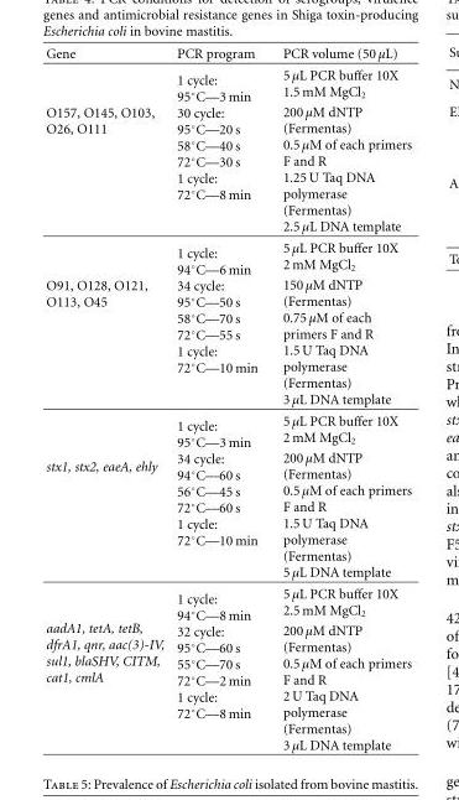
<table><thead><tr><td>Gene</td><td>PCR program</td><td>PCR volume (50 μL)</td></tr></thead><tbody><tr><td rowspan="2">O157, O145, O103, O26, O111</td><td rowspan="2">1 cycle: 95◦C—3 min 30 cycle: 95◦C—20 s 58◦C—40 s 72◦C—30 s 1 cycle: 72◦C—8 min</td><td>5 μL PCR buffer 10X 1.5 mM MgCl2</td></tr><tr><td>200 μM dNTP (Fermentas) 0.5 μM of each primers F and R 1.25 U Taq DNA polymerase (Fermentas) 2.5 μL DNA template</td></tr><tr><td rowspan="2">O91, O128, O121, O113, O45</td><td rowspan="2">1 cycle: 94◦C—6 min 34 cycle: 95◦C—50 s 58◦C—70 s 72◦C—55 s 1 cycle: 72◦C—10 min</td><td>5 μL PCR buffer 10X 2 mM MgCl2</td></tr><tr><td>150 μM dNTP (Fermentas) 0.75 μM of each primers F and R 1.5 U Taq DNA polymerase (Fermentas) 3 μL DNA template</td></tr><tr><td rowspan="2">stx1, stx2, eaeA, ehly</td><td rowspan="2">1 cycle: 95◦C—3 min 34 cycle: 94◦C—60 s 56◦C—45 s 72◦C—60 s 1 cycle: 72◦C—10 min</td><td>5 μL PCR buffer 10X 2 mM MgCl2</td></tr><tr><td>200 μM dNTP (Fermentas) 0.5 μM of each primers F and R 1.5 U Taq DNA polymerase (Fermentas) 5 μL DNA template</td></tr><tr><td rowspan="2">aadA1, tetA, tetB, dfrA1, qnr, aac(3)-IV, sul1, blaSHV, CITM, cat1, cmlA</td><td rowspan="2">1 cycle: 94◦C—8 min 32 cycle: 95◦C—60 s 55◦C—70 s 72◦C—2 min 1 cycle: 72◦C—8 min</td><td>5 μL PCR buffer 10X 2.5 mM MgCl2</td></tr><tr><td>200 μM dNTP (Fermentas) 0.5 μM of each primers F and R 2 U Taq DNA polymerase (Fermentas) 3 μL DNA template</td></tr></tbody></table>